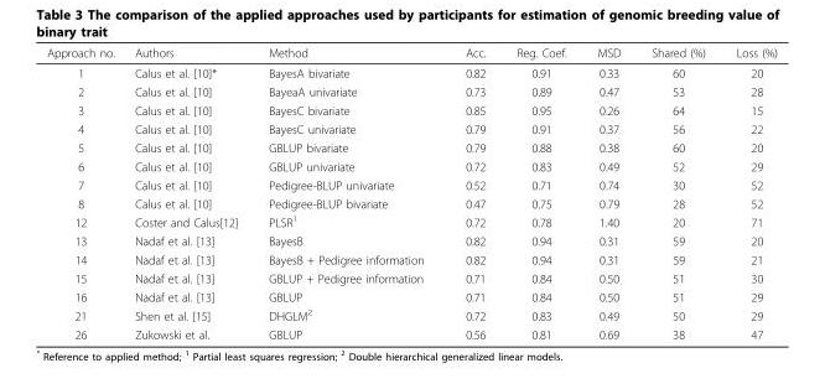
<table><thead><tr><td>Approach no.</td><td>Authors</td><td>Method</td><td>Acc.</td><td>Reg. Coef.</td><td>MSD</td><td>Shared (%)</td><td>Loss (%)</td></tr></thead><tbody><tr><td>1</td><td>Calus et al. [10]*</td><td>BayesA bivariate</td><td>0.82</td><td>0.91</td><td>0.33</td><td>60</td><td>20</td></tr><tr><td>2</td><td>Calus et al. [10]</td><td>BayeaA univariate</td><td>0.73</td><td>0.89</td><td>0.47</td><td>53</td><td>28</td></tr><tr><td>3</td><td>Calus et al. [10]</td><td>BayesC bivariate</td><td>0.85</td><td>0.95</td><td>0.26</td><td>64</td><td>15</td></tr><tr><td>4</td><td>Calus et al. [10]</td><td>BayesC univariate</td><td>0.79</td><td>0.91</td><td>0.37</td><td>56</td><td>22</td></tr><tr><td>5</td><td>Calus et al. [10]</td><td>GBLUP bivariate</td><td>0.79</td><td>0.88</td><td>0.38</td><td>60</td><td>20</td></tr><tr><td>6</td><td>Calus et al. [10]</td><td>GBLUP univariate</td><td>0.72</td><td>0.83</td><td>0.49</td><td>52</td><td>29</td></tr><tr><td>7</td><td>Calus et al. [10]</td><td>Pedigree-BLUP univariate</td><td>0.52</td><td>0.71</td><td>0.74</td><td>30</td><td>52</td></tr><tr><td>8</td><td>Calus et al. [10]</td><td>Pedigree-BLUP bivariate</td><td>0.47</td><td>0.75</td><td>0.79</td><td>28</td><td>52</td></tr><tr><td>12</td><td>Coster and Calus[12]</td><td>PLSR<sup>1</sup></td><td>0.72</td><td>0.78</td><td>1.40</td><td>20</td><td>71</td></tr><tr><td>13</td><td>Nadaf et al. [13]</td><td>BayesB</td><td>0.82</td><td>0.94</td><td>0.31</td><td>59</td><td>20</td></tr><tr><td>14</td><td>Nadaf et al. [13]</td><td>BayesB + Pedigree information</td><td>0.82</td><td>0.94</td><td>0.31</td><td>59</td><td>21</td></tr><tr><td>15</td><td>Nadaf et al. [13]</td><td>GBLUP + Pedigree information</td><td>0.71</td><td>0.84</td><td>0.50</td><td>51</td><td>30</td></tr><tr><td>16</td><td>Nadaf et al. [13]</td><td>GBLUP</td><td>0.71</td><td>0.84</td><td>0.50</td><td>51</td><td>29</td></tr><tr><td>21</td><td>Shen et al. [15]</td><td>DHGLM<sup>2</sup></td><td>0.72</td><td>0.83</td><td>0.49</td><td>50</td><td>29</td></tr><tr><td>26</td><td>Zukowski et al.</td><td>GBLUP</td><td>0.56</td><td>0.81</td><td>0.69</td><td>38</td><td>47</td></tr></tbody></table>